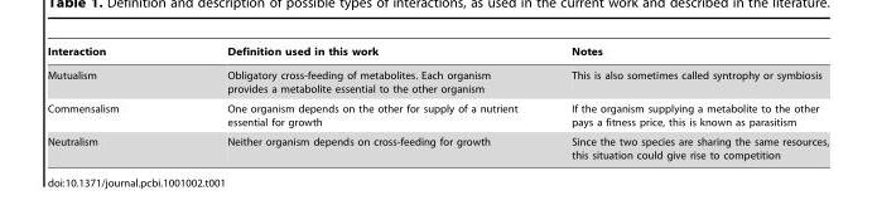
<table><thead><tr><td>Interaction</td><td>Definition used in this work</td><td>Notes</td></tr></thead><tbody><tr><td>Mutualism</td><td>Obligatory cross-feeding of metabolites. Each organism provides a metabolite essential to the other organism</td><td>This is also sometimes called syntrophy or symbiosis</td></tr><tr><td>Commensalism</td><td>One organism depends on the other for supply of a nutrient essential for growth</td><td>If the organism supplying a metabolite to the other pays a fitness price, this is known as parasitism</td></tr><tr><td>Neutralism</td><td>Neither organism depends on cross-feeding for growth</td><td>Since the two species are sharing the same resources, this situation could give rise to competition</td></tr></tbody></table>